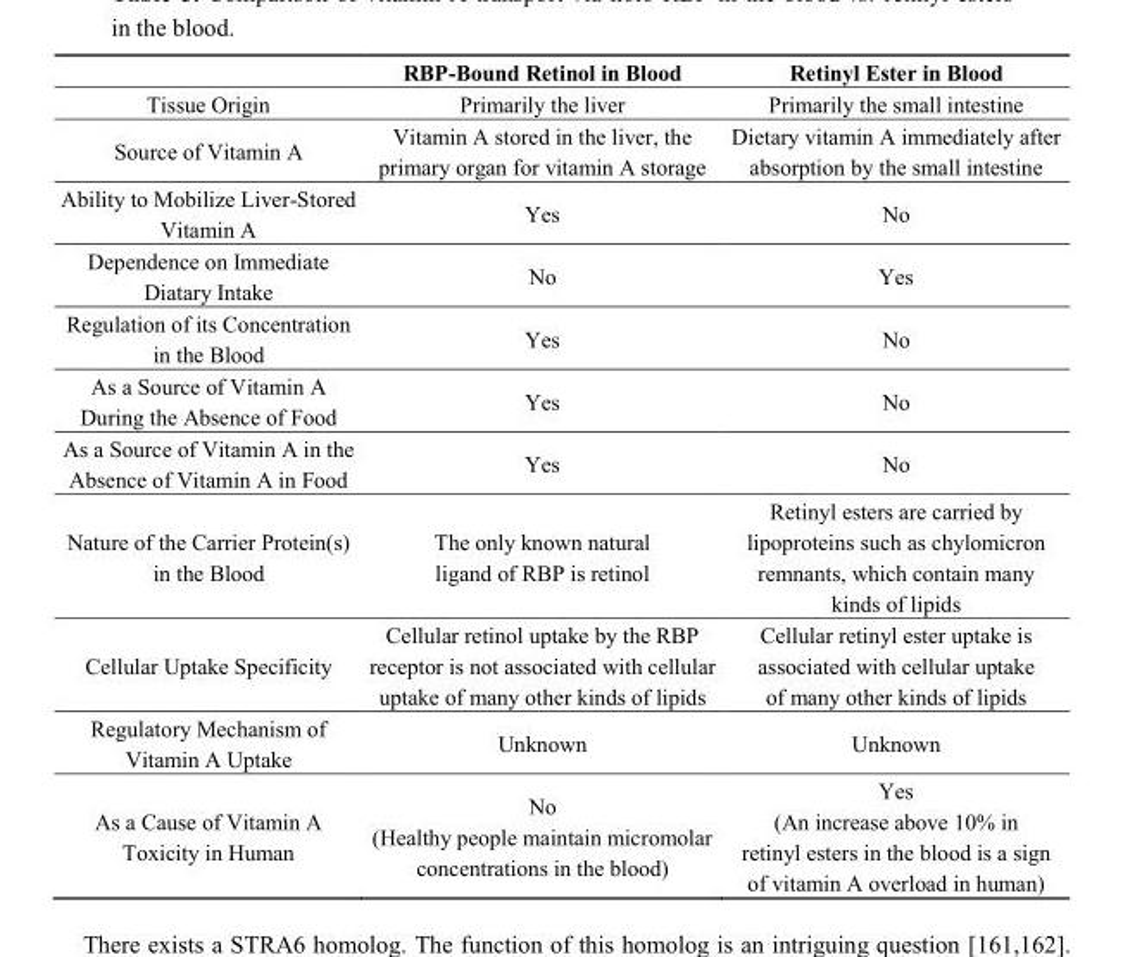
<table><thead><tr><td></td><td>RBP-Bound Retinol in Blood</td><td>Retinyl Ester in Blood</td></tr></thead><tbody><tr><td>Tissue Origin</td><td>Primarily the liver</td><td>Primarily the small intestine</td></tr><tr><td>Source of Vitamin A</td><td>Vitamin A stored in the liver, the primary organ for vitamin A storage</td><td>Dietary vitamin A immediately after absorption by the small intestine</td></tr><tr><td>Ability to Mobilize Liver-Stored Vitamin A</td><td>Yes</td><td>No</td></tr><tr><td>Dependence on Immediate Diatary Intake</td><td>No</td><td>Yes</td></tr><tr><td>Regulation of its Concentration in the Blood</td><td>Yes</td><td>No</td></tr><tr><td>As a Source of Vitamin A During the Absence of Food</td><td>Yes</td><td>No</td></tr><tr><td>As a Source of Vitamin A in the Absence of Vitamin A in Food</td><td>Yes</td><td>No</td></tr><tr><td>Nature of the Carrier Protein(s) in the Blood</td><td>The only known natural ligand of RBP is retinol</td><td>Retinyl esters are carried by lipoproteins such as chylomicron remnants, which contain many kinds of lipids</td></tr><tr><td>Cellular Uptake Specificity</td><td>Cellular retinol uptake by the RBP receptor is not associated with cellular uptake of many other kinds of lipids</td><td>Cellular retinyl ester uptake is associated with cellular uptake of many other kinds of lipids</td></tr><tr><td>Regulatory Mechanism of Vitamin A Uptake</td><td>Unknown</td><td>Unknown</td></tr><tr><td>As a Cause of Vitamin A Toxicity in Human</td><td>No (Healthy people maintain micromolar concentrations in the blood)</td><td>Yes (An increase above 10% in retinyl esters in the blood is a sign of vitamin A overload in human)</td></tr></tbody></table>